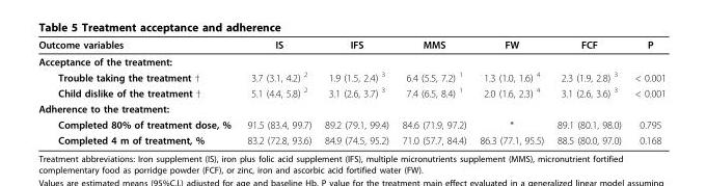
<table><thead><tr><td>Outcome variables</td><td>IS</td><td>IFS</td><td>MMS</td><td>FW</td><td>FCF</td><td>P</td></tr></thead><tbody><tr><td colspan="7">Acceptance of the treatment:</td></tr><tr><td>Trouble taking the treatment †</td><td>3.7 (3.1, 4.2) <sup>2</sup></td><td>1.9 (1.5, 2.4) <sup>3</sup></td><td>6.4 (5.5, 7.2) <sup>1</sup></td><td>1.3 (1.0, 1.6) <sup>4</sup></td><td>2.3 (1.9, 2.8) <sup>3</sup></td><td>&lt; 0.001</td></tr><tr><td>Child dislike of the treatment †</td><td>5.1 (4.4, 5.8) <sup>2</sup></td><td>3.1 (2.6, 3.7) <sup>3</sup></td><td>7.4 (6.5, 8.4) <sup>1</sup></td><td>2.0 (1.6, 2.3) <sup>4</sup></td><td>3.1 (2.6, 3.6) <sup>3</sup></td><td>&lt; 0.001</td></tr><tr><td colspan="7">Adherence to the treatment:</td></tr><tr><td>Completed 80% of treatment dose, %</td><td>91.5 (83.4, 99.7)</td><td>89.2 (79.1, 99.4)</td><td>84.6 (71.9, 97.2)</td><td>*</td><td>89.1 (80.1, 98.0)</td><td>0.795</td></tr><tr><td>Completed 4 m of treatment, %</td><td>83.2 (72.8, 93.6)</td><td>84.9 (74.5, 95.2)</td><td>71.0 (57.7, 84.4)</td><td>86.3 (77.1, 95.5)</td><td>88.5 (80.0, 97.0)</td><td>0.168</td></tr></tbody></table>